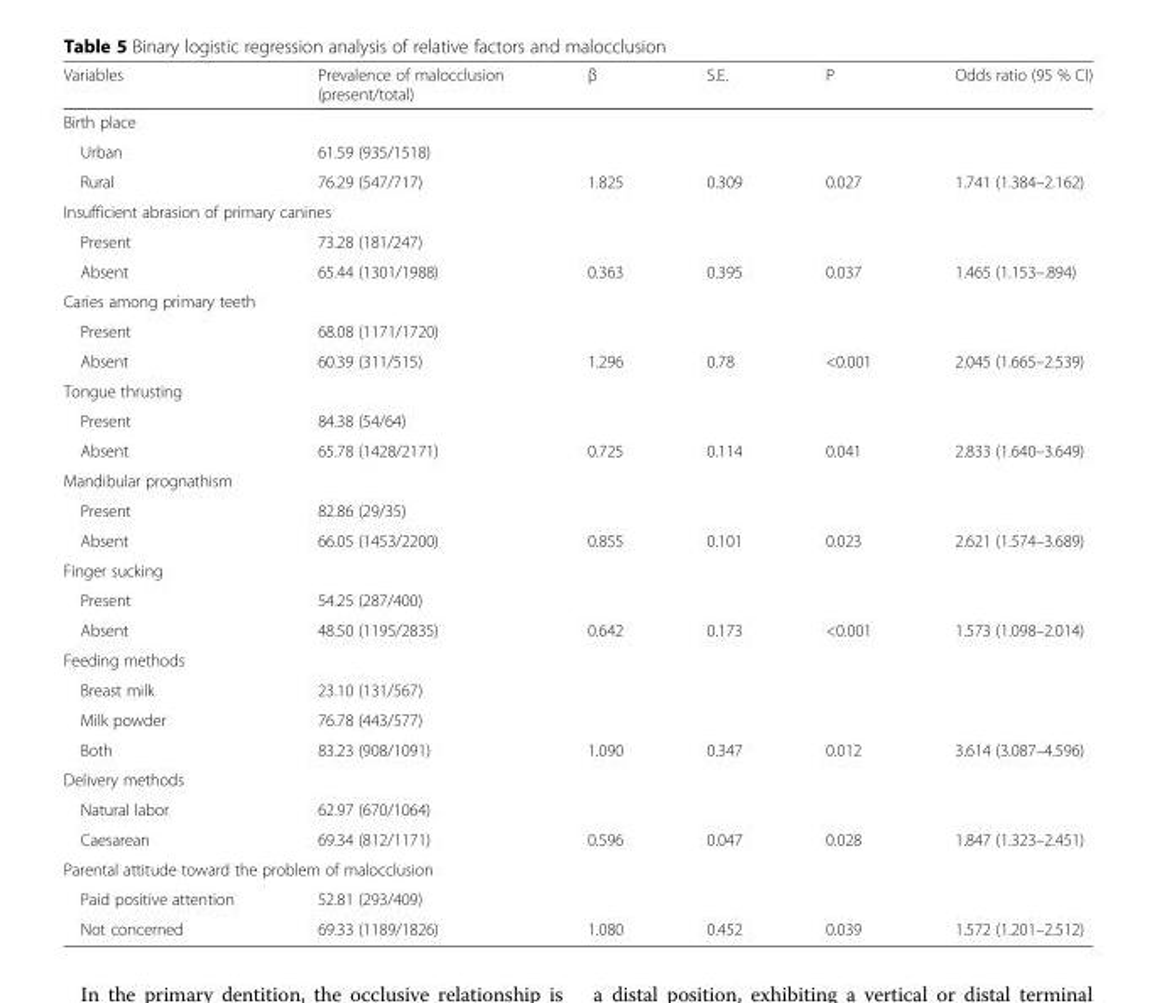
<table><thead><tr><td>Variables</td><td>Prevalence of malocclusion (present/total)</td><td>β</td><td>S.E.</td><td>P</td><td>Odds ratio (95 % CI)</td></tr></thead><tbody><tr><td colspan="6">Birth place</td></tr><tr><td>Urban</td><td>61.59 (935/1518)</td><td></td><td></td><td></td><td></td></tr><tr><td>Rural</td><td>76.29 (547/717)</td><td>1.825</td><td>0.309</td><td>0.027</td><td>1.741 (1.384–2.162)</td></tr><tr><td colspan="6">Insufficient abrasion of primary canines</td></tr><tr><td>Present</td><td>73.28 (181/247)</td><td></td><td></td><td></td><td></td></tr><tr><td>Absent</td><td>65.44 (1301/1988)</td><td>0.363</td><td>0.395</td><td>0.037</td><td>1.465 (1.153–.894)</td></tr><tr><td colspan="6">Caries among primary teeth</td></tr><tr><td>Present</td><td>68.08 (1171/1720)</td><td></td><td></td><td></td><td></td></tr><tr><td>Absent</td><td>60.39 (311/515)</td><td>1.296</td><td>0.78</td><td>&lt;0.001</td><td>2.045 (1.665–2.539)</td></tr><tr><td colspan="6">Tongue thrusting</td></tr><tr><td>Present</td><td>84.38 (54/64)</td><td></td><td></td><td></td><td></td></tr><tr><td>Absent</td><td>65.78 (1428/2171)</td><td>0.725</td><td>0.114</td><td>0.041</td><td>2.833 (1.640–3.649)</td></tr><tr><td colspan="6">Mandibular prognathism</td></tr><tr><td>Present</td><td>82.86 (29/35)</td><td></td><td></td><td></td><td></td></tr><tr><td>Absent</td><td>66.05 (1453/2200)</td><td>0.855</td><td>0.101</td><td>0.023</td><td>2.621 (1.574–3.689)</td></tr><tr><td colspan="6">Finger sucking</td></tr><tr><td>Present</td><td>54.25 (287/400)</td><td></td><td></td><td></td><td></td></tr><tr><td>Absent</td><td>48.50 (1195/2835)</td><td>0.642</td><td>0.173</td><td>&lt;0.001</td><td>1.573 (1.098–2.014)</td></tr><tr><td colspan="6">Feeding methods</td></tr><tr><td>Breast milk</td><td>23.10 (131/567)</td><td></td><td></td><td></td><td></td></tr><tr><td>Milk powder</td><td>76.78 (443/577)</td><td></td><td></td><td></td><td></td></tr><tr><td>Both</td><td>83.23 (908/1091)</td><td>1.090</td><td>0.347</td><td>0.012</td><td>3.614 (3.087–4.596)</td></tr><tr><td colspan="6">Delivery methods</td></tr><tr><td>Natural labor</td><td>62.97 (670/1064)</td><td></td><td></td><td></td><td></td></tr><tr><td>Caesarean</td><td>69.34 (812/1171)</td><td>0.596</td><td>0.047</td><td>0.028</td><td>1.847 (1.323–2.451)</td></tr><tr><td colspan="6">Parental attitude toward the problem of malocclusion</td></tr><tr><td>Paid positive attention</td><td>52.81 (293/409)</td><td></td><td></td><td></td><td></td></tr><tr><td>Not concerned</td><td>69.33 (1189/1826)</td><td>1.080</td><td>0.452</td><td>0.039</td><td>1.572 (1.201–2.512)</td></tr></tbody></table>